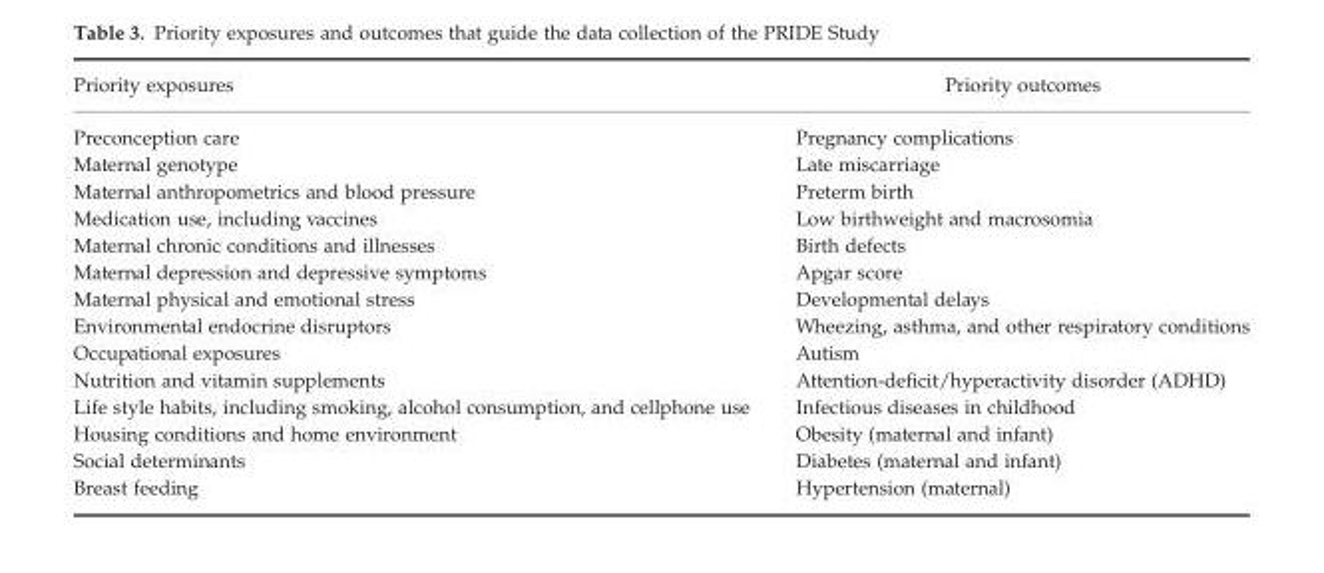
<table><thead><tr><td>Priority exposures</td><td>Priority outcomes</td></tr></thead><tbody><tr><td>Preconception care</td><td>Pregnancy complications</td></tr><tr><td>Maternal genotype</td><td>Late miscarriage</td></tr><tr><td>Maternal anthropometrics and blood pressure</td><td>Preterm birth</td></tr><tr><td>Medication use, including vaccines</td><td>Low birthweight and macrosomia</td></tr><tr><td>Maternal chronic conditions and illnesses</td><td>Birth defects</td></tr><tr><td>Maternal depression and depressive symptoms</td><td>Apgar score</td></tr><tr><td>Maternal physical and emotional stress</td><td>Developmental delays</td></tr><tr><td>Environmental endocrine disruptors</td><td>Wheezing, asthma, and other respiratory conditions</td></tr><tr><td>Occupational exposures</td><td>Autism</td></tr><tr><td>Nutrition and vitamin supplements</td><td>Attention-deficit/hyperactivity disorder (ADHD)</td></tr><tr><td>Life style habits, including smoking, alcohol consumption, and cellphone use</td><td>Infectious diseases in childhood</td></tr><tr><td>Housing conditions and home environment</td><td>Obesity (maternal and infant)</td></tr><tr><td>Social determinants</td><td>Diabetes (maternal and infant)</td></tr><tr><td>Breast feeding</td><td>Hypertension (maternal)</td></tr></tbody></table>